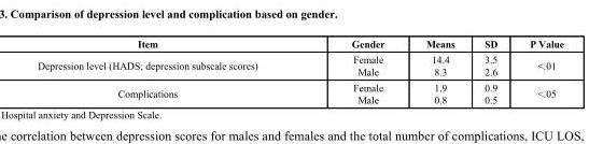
<table><thead><tr><td>Item</td><td>Gender</td><td>Means</td><td>SD</td><td>P Value</td></tr></thead><tbody><tr><td>Depression level (HADS; depression subscale scores)</td><td>Female Male</td><td>14.4 8.3</td><td>3.5 2.6</td><td>&lt;.01</td></tr><tr><td>Complications</td><td>Female Male</td><td>1.9 0.8</td><td>0.9 0.5</td><td>&lt;.05</td></tr></tbody></table>